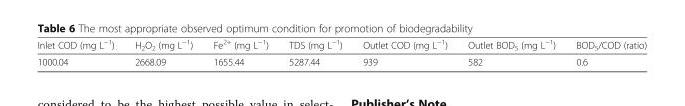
<table><thead><tr><td>Inlet COD (mg L<sup>−1</sup>)</td><td>H<sub>2</sub>O<sub>2</sub> (mg L<sup>−1</sup>)</td><td>Fe<sup>2+</sup> (mg L<sup>−1</sup>)</td><td>TDS (mg L<sup>−1</sup>)</td><td>Outlet COD (mg L<sup>−1</sup>)</td><td>Outlet BOD<sub>5</sub> (mg L<sup>−1</sup>)</td><td>BOD<sub>5</sub>/COD (ratio)</td></tr></thead><tbody><tr><td>1000.04</td><td>2668.09</td><td>1655.44</td><td>5287.44</td><td>939</td><td>582</td><td>0.6</td></tr></tbody></table>